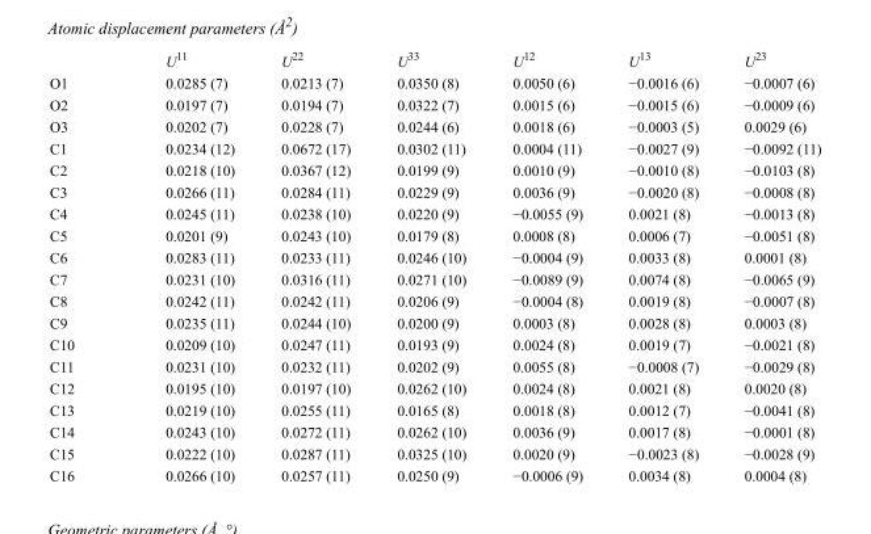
<table><thead><tr><td></td><td>U<sup>11</sup></td><td>U<sup>22</sup></td><td>U<sup>33</sup></td><td>U<sup>12</sup></td><td>U<sup>13</sup></td><td>U<sup>23</sup></td></tr></thead><tbody><tr><td>O1</td><td>0.0285 (7)</td><td>0.0213 (7)</td><td>0.0350 (8)</td><td>0.0050 (6)</td><td>−0.0016 (6)</td><td>−0.0007 (6)</td></tr><tr><td>O2</td><td>0.0197 (7)</td><td>0.0194 (7)</td><td>0.0322 (7)</td><td>0.0015 (6)</td><td>−0.0015 (6)</td><td>−0.0009 (6)</td></tr><tr><td>O3</td><td>0.0202 (7)</td><td>0.0228 (7)</td><td>0.0244 (6)</td><td>0.0018 (6)</td><td>−0.0003 (5)</td><td>0.0029 (6)</td></tr><tr><td>C1</td><td>0.0234 (12)</td><td>0.0672 (17)</td><td>0.0302 (11)</td><td>0.0004 (11)</td><td>−0.0027 (9)</td><td>−0.0092 (11)</td></tr><tr><td>C2</td><td>0.0218 (10)</td><td>0.0367 (12)</td><td>0.0199 (9)</td><td>0.0010 (9)</td><td>−0.0010 (8)</td><td>−0.0103 (8)</td></tr><tr><td>C3</td><td>0.0266 (11)</td><td>0.0284 (11)</td><td>0.0229 (9)</td><td>0.0036 (9)</td><td>−0.0020 (8)</td><td>−0.0008 (8)</td></tr><tr><td>C4</td><td>0.0245 (11)</td><td>0.0238 (10)</td><td>0.0220 (9)</td><td>−0.0055 (9)</td><td>0.0021 (8)</td><td>−0.0013 (8)</td></tr><tr><td>C5</td><td>0.0201 (9)</td><td>0.0243 (10)</td><td>0.0179 (8)</td><td>0.0008 (8)</td><td>0.0006 (7)</td><td>−0.0051 (8)</td></tr><tr><td>C6</td><td>0.0283 (11)</td><td>0.0233 (11)</td><td>0.0246 (10)</td><td>−0.0004 (9)</td><td>0.0033 (8)</td><td>0.0001 (8)</td></tr><tr><td>C7</td><td>0.0231 (10)</td><td>0.0316 (11)</td><td>0.0271 (10)</td><td>−0.0089 (9)</td><td>0.0074 (8)</td><td>−0.0065 (9)</td></tr><tr><td>C8</td><td>0.0242 (11)</td><td>0.0242 (11)</td><td>0.0206 (9)</td><td>−0.0004 (8)</td><td>0.0019 (8)</td><td>−0.0007 (8)</td></tr><tr><td>C9</td><td>0.0235 (11)</td><td>0.0244 (10)</td><td>0.0200 (9)</td><td>0.0003 (8)</td><td>0.0028 (8)</td><td>0.0003 (8)</td></tr><tr><td>C10</td><td>0.0209 (10)</td><td>0.0247 (11)</td><td>0.0193 (9)</td><td>0.0024 (8)</td><td>0.0019 (7)</td><td>−0.0021 (8)</td></tr><tr><td>C11</td><td>0.0231 (10)</td><td>0.0232 (11)</td><td>0.0202 (9)</td><td>0.0055 (8)</td><td>−0.0008 (7)</td><td>−0.0029 (8)</td></tr><tr><td>C12</td><td>0.0195 (10)</td><td>0.0197 (10)</td><td>0.0262 (10)</td><td>0.0024 (8)</td><td>0.0021 (8)</td><td>0.0020 (8)</td></tr><tr><td>C13</td><td>0.0219 (10)</td><td>0.0255 (11)</td><td>0.0165 (8)</td><td>0.0018 (8)</td><td>0.0012 (7)</td><td>−0.0041 (8)</td></tr><tr><td>C14</td><td>0.0243 (10)</td><td>0.0272 (11)</td><td>0.0262 (10)</td><td>0.0036 (9)</td><td>0.0017 (8)</td><td>−0.0001 (8)</td></tr><tr><td>C15</td><td>0.0222 (10)</td><td>0.0287 (11)</td><td>0.0325 (10)</td><td>0.0020 (9)</td><td>−0.0023 (8)</td><td>−0.0028 (9)</td></tr><tr><td>C16</td><td>0.0266 (10)</td><td>0.0257 (11)</td><td>0.0250 (9)</td><td>−0.0006 (9)</td><td>0.0034 (8)</td><td>0.0004 (8)</td></tr></tbody></table>